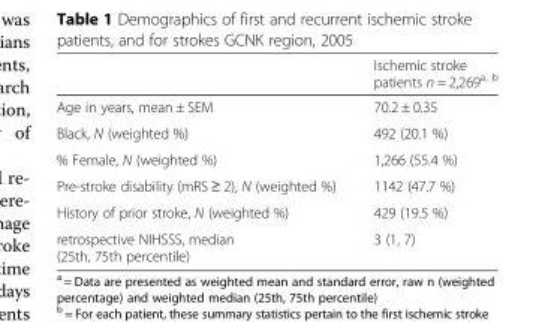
<table><thead><tr><td></td><td>Ischemic stroke patients n = 2,269<sup>a, b</sup></td></tr></thead><tbody><tr><td>Age in years, mean ± SEM</td><td>70.2 ± 0.35</td></tr><tr><td>Black, N (weighted %)</td><td>492 (20.1 %)</td></tr><tr><td>% Female, N (weighted %)</td><td>1,266 (55.4 %)</td></tr><tr><td>Pre-stroke disability (mRS ≥ 2), N (weighted %)</td><td>1142 (47.7 %)</td></tr><tr><td>History of prior stroke, N (weighted %)</td><td>429 (19.5 %)</td></tr><tr><td>retrospective NIHSSS, median (25th, 75th percentile)</td><td>3 (1, 7)</td></tr></tbody></table>